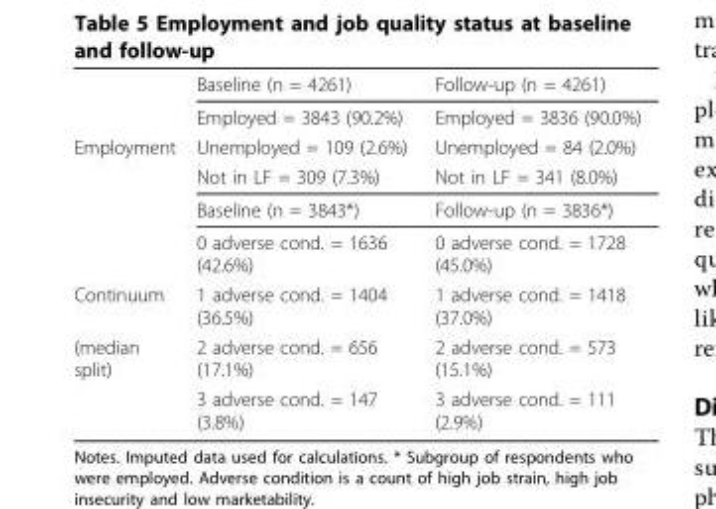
<table><thead><tr><td></td><td>Baseline (n = 4261)</td><td>Follow-up (n = 4261)</td></tr></thead><tbody><tr><td></td><td>Employed = 3843 (90.2%)</td><td>Employed = 3836 (90.0%)</td></tr><tr><td rowspan="4">Employment</td><td>Unemployed = 109 (2.6%)</td><td>Unemployed = 84 (2.0%)</td></tr><tr><td>Not in LF = 309 (7.3%)</td><td>Not in LF = 341 (8.0%)</td></tr><tr><td>Baseline (n = 3843*)</td><td>Follow-up (n = 3836*)</td></tr><tr><td>0 adverse cond. = 1636 (42.6%)</td><td>0 adverse cond. = 1728 (45.0%)</td></tr><tr><td>Continuum</td><td>1 adverse cond. = 1404 (36.5%)</td><td>1 adverse cond. = 1418 (37.0%)</td></tr><tr><td rowspan="2">(median split)</td><td>2 adverse cond. = 656 (17.1%)</td><td>2 adverse cond. = 573 (15.1%)</td></tr><tr><td>3 adverse cond. = 147 (3.8%)</td><td>3 adverse cond. = 111 (2.9%)</td></tr></tbody></table>